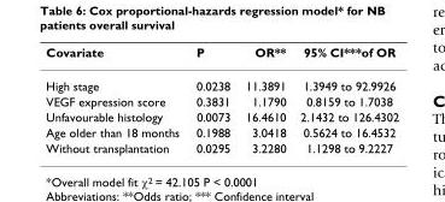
<table><thead><tr><td>Covariate</td><td>P</td><td>OR**</td><td>95% CI***of OR</td></tr></thead><tbody><tr><td>High stage</td><td>0.0238</td><td>11.3891</td><td>1.3949 to 92.9926</td></tr><tr><td>VEGF expression score</td><td>0.3831</td><td>1.1790</td><td>0.8159 to 1.7038</td></tr><tr><td>Unfavourable histology</td><td>0.0073</td><td>16.4610</td><td>2.1432 to 126.4302</td></tr><tr><td>Age older than 18 months</td><td>0.1988</td><td>3.0418</td><td>0.5624 to 16.4532</td></tr><tr><td>Without transplantation</td><td>0.0295</td><td>3.2280</td><td>1.1298 to 9.2227</td></tr></tbody></table>